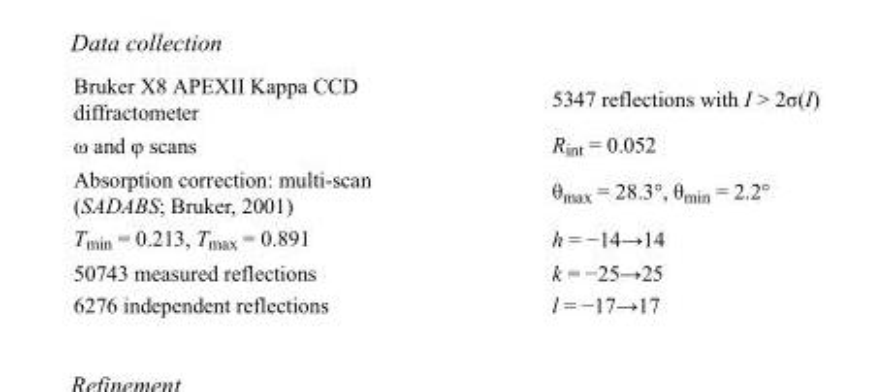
<table><tbody><tr><td>Bruker X8 APEXII Kappa CCD diffractometer</td><td>5347 reflections with I &gt; 2σ(I)</td></tr><tr><td>ω and φ scans</td><td>R<sub>int</sub> = 0.052</td></tr><tr><td>Absorption correction: multi-scan (SADABS; Bruker, 2001)</td><td>θ<sub>max</sub> = 28.3°, θ<sub>min</sub> = 2.2°</td></tr><tr><td>T<sub>min</sub> = 0.213, T<sub>max</sub> = 0.891</td><td>h = −14→14</td></tr><tr><td>50743 measured reflections</td><td>k = −25→25</td></tr><tr><td>6276 independent reflections</td><td>l = −17→17</td></tr></tbody></table>